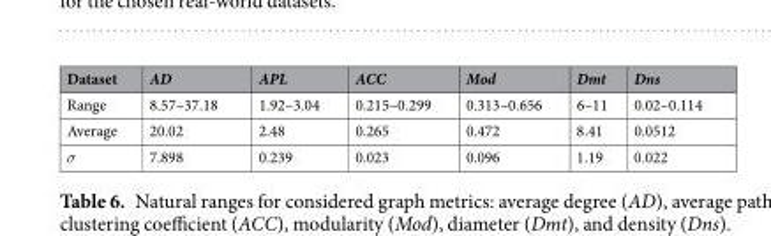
<table><thead><tr><td>Dataset</td><td>AD</td><td>APL</td><td>ACC</td><td>Mod</td><td>Dmt</td><td>Dns</td></tr></thead><tbody><tr><td>Range</td><td>8.57–37.18</td><td>1.92–3.04</td><td>0.215–0.299</td><td>0.313–0.656</td><td>6–11</td><td>0.02–0.114</td></tr><tr><td>Average</td><td>20.02</td><td>2.48</td><td>0.265</td><td>0.472</td><td>8.41</td><td>0.0512</td></tr><tr><td>σ</td><td>7.898</td><td>0.239</td><td>0.023</td><td>0.096</td><td>1.19</td><td>0.022</td></tr></tbody></table>